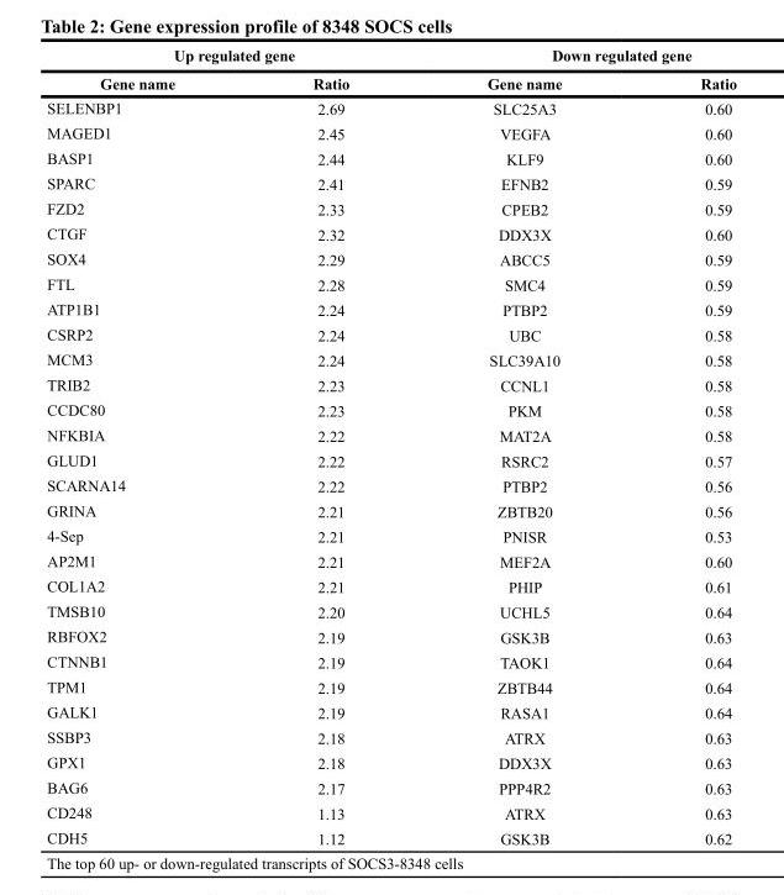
<table><thead><tr><td colspan="2">Up regulated gene</td><td colspan="2">Down regulated gene</td></tr><tr><td>Gene name</td><td>Ratio</td><td>Gene name</td><td>Ratio</td></tr></thead><tbody><tr><td>SELENBP1</td><td>2.69</td><td>SLC25A3</td><td>0.60</td></tr><tr><td>MAGED1</td><td>2.45</td><td>VEGFA</td><td>0.60</td></tr><tr><td>BASP1</td><td>2.44</td><td>KLF9</td><td>0.60</td></tr><tr><td>SPARC</td><td>2.41</td><td>EFNB2</td><td>0.59</td></tr><tr><td>FZD2</td><td>2.33</td><td>CPEB2</td><td>0.59</td></tr><tr><td>CTGF</td><td>2.32</td><td>DDX3X</td><td>0.60</td></tr><tr><td>SOX4</td><td>2.29</td><td>ABCC5</td><td>0.59</td></tr><tr><td>FTL</td><td>2.28</td><td>SMC4</td><td>0.59</td></tr><tr><td>ATP1B1</td><td>2.24</td><td>PTBP2</td><td>0.59</td></tr><tr><td>CSRP2</td><td>2.24</td><td>UBC</td><td>0.58</td></tr><tr><td>MCM3</td><td>2.24</td><td>SLC39A10</td><td>0.58</td></tr><tr><td>TRIB2</td><td>2.23</td><td>CCNL1</td><td>0.58</td></tr><tr><td>CCDC80</td><td>2.23</td><td>PKM</td><td>0.58</td></tr><tr><td>NFKBIA</td><td>2.22</td><td>MAT2A</td><td>0.58</td></tr><tr><td>GLUD1</td><td>2.22</td><td>RSRC2</td><td>0.57</td></tr><tr><td>SCARNA14</td><td>2.22</td><td>PTBP2</td><td>0.56</td></tr><tr><td>GRINA</td><td>2.21</td><td>ZBTB20</td><td>0.56</td></tr><tr><td>4-Sep</td><td>2.21</td><td>PNISR</td><td>0.53</td></tr><tr><td>AP2M1</td><td>2.21</td><td>MEF2A</td><td>0.60</td></tr><tr><td>COL1A2</td><td>2.21</td><td>PHIP</td><td>0.61</td></tr><tr><td>TMSB10</td><td>2.20</td><td>UCHL5</td><td>0.64</td></tr><tr><td>RBFOX2</td><td>2.19</td><td>GSK3B</td><td>0.63</td></tr><tr><td>CTNNB1</td><td>2.19</td><td>TAOK1</td><td>0.64</td></tr><tr><td>TPM1</td><td>2.19</td><td>ZBTB44</td><td>0.64</td></tr><tr><td>GALK1</td><td>2.19</td><td>RASA1</td><td>0.64</td></tr><tr><td>SSBP3</td><td>2.18</td><td>ATRX</td><td>0.63</td></tr><tr><td>GPX1</td><td>2.18</td><td>DDX3X</td><td>0.63</td></tr><tr><td>BAG6</td><td>2.17</td><td>PPP4R2</td><td>0.63</td></tr><tr><td>CD248</td><td>1.13</td><td>ATRX</td><td>0.63</td></tr><tr><td>CDH5</td><td>1.12</td><td>GSK3B</td><td>0.62</td></tr></tbody></table>